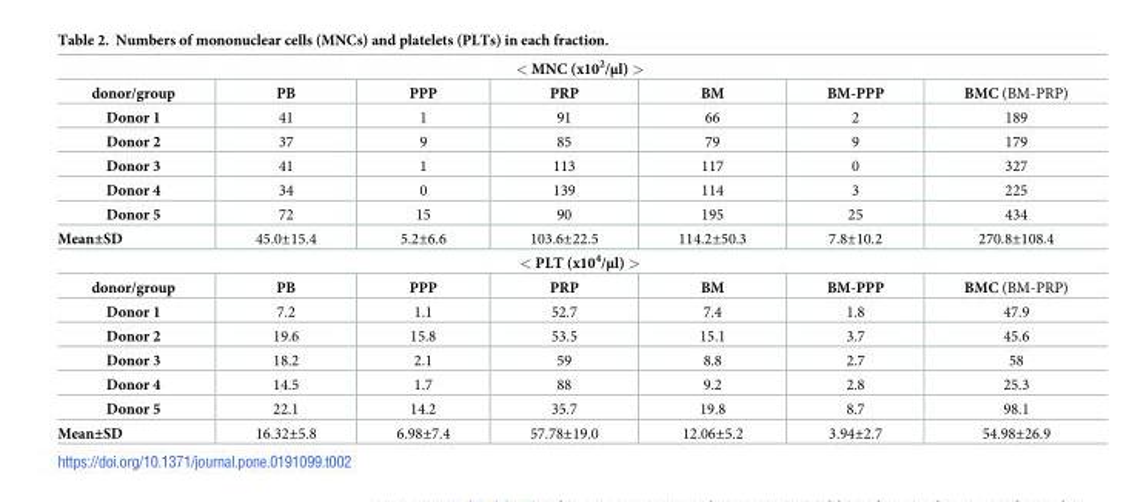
<table><tbody><tr><td colspan="7">&lt; MNC (x10<sup>2</sup>/μl) &gt;</td></tr><tr><td>donor/group</td><td>PB</td><td>PPP</td><td>PRP</td><td>BM</td><td>BM-PPP</td><td>BMC (BM-PRP)</td></tr><tr><td>Donor 1</td><td>41</td><td>1</td><td>91</td><td>66</td><td>2</td><td>189</td></tr><tr><td>Donor 2</td><td>37</td><td>9</td><td>85</td><td>79</td><td>9</td><td>179</td></tr><tr><td>Donor 3</td><td>41</td><td>1</td><td>113</td><td>117</td><td>0</td><td>327</td></tr><tr><td>Donor 4</td><td>34</td><td>0</td><td>139</td><td>114</td><td>3</td><td>225</td></tr><tr><td>Donor 5</td><td>72</td><td>15</td><td>90</td><td>195</td><td>25</td><td>434</td></tr><tr><td>Mean±SD</td><td>45.0±15.4</td><td>5.2±6.6</td><td>103.6±22.5</td><td>114.2±50.3</td><td>7.8±10.2</td><td>270.8±108.4</td></tr><tr><td colspan="7">&lt; PLT (x10<sup>4</sup>/μl) &gt;</td></tr><tr><td>donor/group</td><td>PB</td><td>PPP</td><td>PRP</td><td>BM</td><td>BM-PPP</td><td>BMC (BM-PRP)</td></tr><tr><td>Donor 1</td><td>7.2</td><td>1.1</td><td>52.7</td><td>7.4</td><td>1.8</td><td>47.9</td></tr><tr><td>Donor 2</td><td>19.6</td><td>15.8</td><td>53.5</td><td>15.1</td><td>3.7</td><td>45.6</td></tr><tr><td>Donor 3</td><td>18.2</td><td>2.1</td><td>59</td><td>8.8</td><td>2.7</td><td>58</td></tr><tr><td>Donor 4</td><td>14.5</td><td>1.7</td><td>88</td><td>9.2</td><td>2.8</td><td>25.3</td></tr><tr><td>Donor 5</td><td>22.1</td><td>14.2</td><td>35.7</td><td>19.8</td><td>8.7</td><td>98.1</td></tr><tr><td>Mean±SD</td><td>16.32±5.8</td><td>6.98±7.4</td><td>57.78±19.0</td><td>12.06±5.2</td><td>3.94±2.7</td><td>54.98±26.9</td></tr></tbody></table>